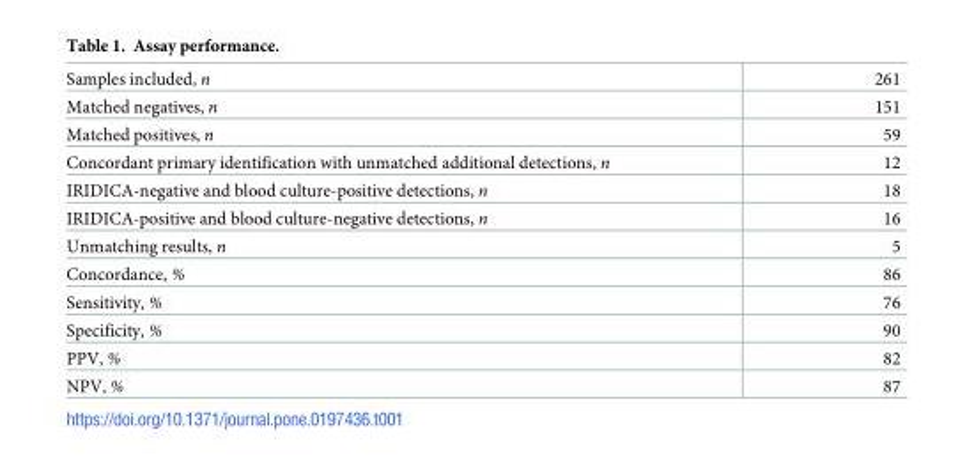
<table><tbody><tr><td>Samples included, n</td><td>261</td></tr><tr><td>Matched negatives, n</td><td>151</td></tr><tr><td>Matched positives, n</td><td>59</td></tr><tr><td>Concordant primary identification with unmatched additional detections, n</td><td>12</td></tr><tr><td>IRIDICA-negative and blood culture-positive detections, n</td><td>18</td></tr><tr><td>IRIDICA-positive and blood culture-negative detections, n</td><td>16</td></tr><tr><td>Unmatching results, n</td><td>5</td></tr><tr><td>Concordance, %</td><td>86</td></tr><tr><td>Sensitivity, %</td><td>76</td></tr><tr><td>Specificity, %</td><td>90</td></tr><tr><td>PPV, %</td><td>82</td></tr><tr><td>NPV, %</td><td>87</td></tr></tbody></table>